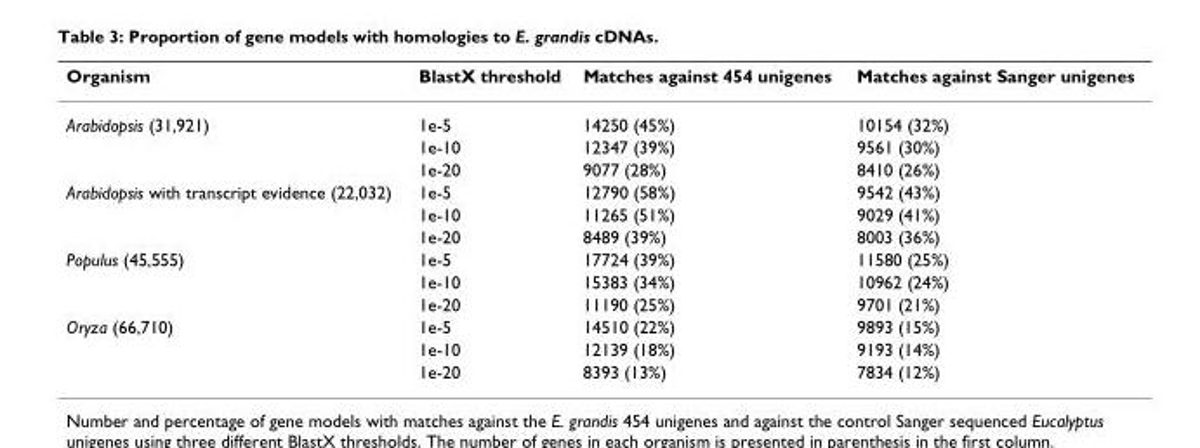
<table><thead><tr><td>Organism</td><td>BlastX threshold</td><td>Matches against 454 unigenes</td><td>Matches against Sanger unigenes</td></tr></thead><tbody><tr><td rowspan="3">Arabidopsis (31,921)</td><td>1e-5</td><td>14250 (45%)</td><td>10154 (32%)</td></tr><tr><td>1e-10</td><td>12347 (39%)</td><td>9561 (30%)</td></tr><tr><td>1e-20</td><td>9077 (28%)</td><td>8410 (26%)</td></tr><tr><td rowspan="3">Arabidopsis with transcript evidence (22,032)</td><td>1e-5</td><td>12790 (58%)</td><td>9542 (43%)</td></tr><tr><td>1e-10</td><td>11265 (51%)</td><td>9029 (41%)</td></tr><tr><td>1e-20</td><td>8489 (39%)</td><td>8003 (36%)</td></tr><tr><td rowspan="3">Populus (45,555)</td><td>1e-5</td><td>17724 (39%)</td><td>11580 (25%)</td></tr><tr><td>1e-10</td><td>15383 (34%)</td><td>10962 (24%)</td></tr><tr><td>1e-20</td><td>11190 (25%)</td><td>9701 (21%)</td></tr><tr><td rowspan="3">Oryza (66,710)</td><td>1e-5</td><td>14510 (22%)</td><td>9893 (15%)</td></tr><tr><td>1e-10</td><td>12139 (18%)</td><td>9193 (14%)</td></tr><tr><td>1e-20</td><td>8393 (13%)</td><td>7834 (12%)</td></tr></tbody></table>